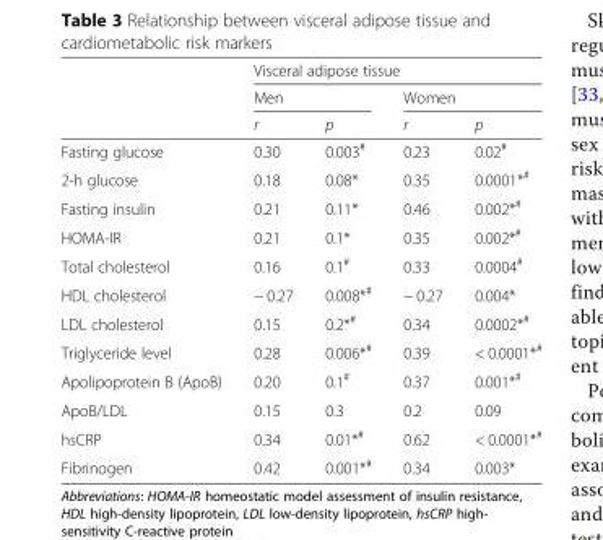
<table><thead><tr><td rowspan="3"></td><td colspan="4">Visceral adipose tissue</td></tr><tr><td colspan="2">Men</td><td colspan="2">Women</td></tr><tr><td>r</td><td>p</td><td>r</td><td>p</td></tr></thead><tbody><tr><td>Fasting glucose</td><td>0.30</td><td>0.003<sup>#</sup></td><td>0.23</td><td>0.02<sup>#</sup></td></tr><tr><td>2-h glucose</td><td>0.18</td><td>0.08*</td><td>0.35</td><td>0.0001*<sup>#</sup></td></tr><tr><td>Fasting insulin</td><td>0.21</td><td>0.11*</td><td>0.46</td><td>0.002*<sup>#</sup></td></tr><tr><td>HOMA-IR</td><td>0.21</td><td>0.1*</td><td>0.35</td><td>0.002*<sup>#</sup></td></tr><tr><td>Total cholesterol</td><td>0.16</td><td>0.1<sup>#</sup></td><td>0.33</td><td>0.0004<sup>#</sup></td></tr><tr><td>HDL cholesterol</td><td>− 0.27</td><td>0.008*<sup>#</sup></td><td>− 0.27</td><td>0.004*</td></tr><tr><td>LDL cholesterol</td><td>0.15</td><td>0.2*<sup>#</sup></td><td>0.34</td><td>0.0002*<sup>#</sup></td></tr><tr><td>Triglyceride level</td><td>0.28</td><td>0.006*<sup>#</sup></td><td>0.39</td><td>&lt; 0.0001*<sup>#</sup></td></tr><tr><td>Apolipoprotein B (ApoB)</td><td>0.20</td><td>0.1<sup>#</sup></td><td>0.37</td><td>0.001*<sup>#</sup></td></tr><tr><td>ApoB/LDL</td><td>0.15</td><td>0.3</td><td>0.2</td><td>0.09</td></tr><tr><td>hsCRP</td><td>0.34</td><td>0.01*<sup>#</sup></td><td>0.62</td><td>&lt; 0.0001*<sup>#</sup></td></tr><tr><td>Fibrinogen</td><td>0.42</td><td>0.001*<sup>#</sup></td><td>0.34</td><td>0.003*</td></tr></tbody></table>